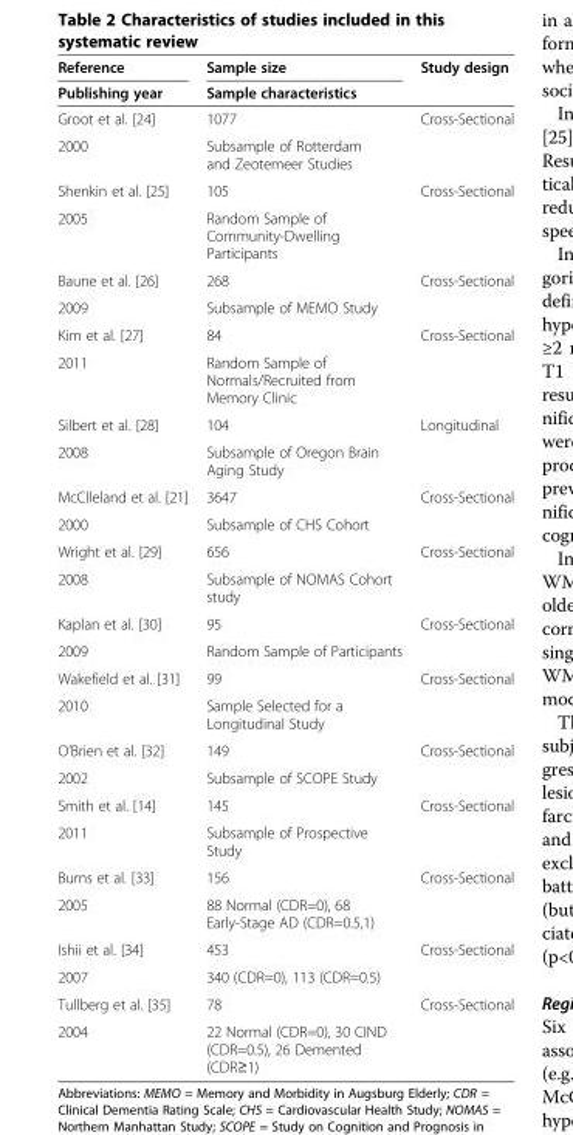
<table><thead><tr><td rowspan="2">Reference Publishing year</td><td rowspan="2">Sample size Sample characteristics</td><td rowspan="2">Study design</td></tr><tr></tr></thead><tbody><tr><td>Groot et al. [24]</td><td>1077</td><td rowspan="2">Cross-Sectional</td></tr><tr><td>2000</td><td>Subsample of Rotterdam and Zeotemeer Studies</td></tr><tr><td>Shenkin et al. [25]</td><td>105</td><td rowspan="2">Cross-Sectional</td></tr><tr><td>2005</td><td>Random Sample of Community-Dwelling Participants</td></tr><tr><td>Baune et al. [26]</td><td>268</td><td rowspan="2">Cross-Sectional</td></tr><tr><td>2009</td><td>Subsample of MEMO Study</td></tr><tr><td>Kim et al. [27]</td><td>84</td><td rowspan="2">Cross-Sectional</td></tr><tr><td>2011</td><td>Random Sample of Normals/Recruited from Memory Clinic</td></tr><tr><td>Silbert et al. [28]</td><td>104</td><td rowspan="2">Longitudinal</td></tr><tr><td>2008</td><td>Subsample of Oregon Brain Aging Study</td></tr><tr><td>McClleland et al. [21]</td><td>3647</td><td rowspan="2">Cross-Sectional</td></tr><tr><td>2000</td><td>Subsample of CHS Cohort</td></tr><tr><td>Wright et al. [29]</td><td>656</td><td rowspan="2">Cross-Sectional</td></tr><tr><td>2008</td><td>Subsample of NOMAS Cohort study</td></tr><tr><td>Kaplan et al. [30]</td><td>95</td><td rowspan="2">Cross-Sectional</td></tr><tr><td>2009</td><td>Random Sample of Participants</td></tr><tr><td>Wakefield et al. [31]</td><td>99</td><td rowspan="2">Cross-Sectional</td></tr><tr><td>2010</td><td>Sample Selected for a Longitudinal Study</td></tr><tr><td>O’Brien et al. [32]</td><td>149</td><td rowspan="2">Cross-Sectional</td></tr><tr><td>2002</td><td>Subsample of SCOPE Study</td></tr><tr><td>Smith et al. [14]</td><td>145</td><td rowspan="2">Cross-Sectional</td></tr><tr><td>2011</td><td>Subsample of Prospective Study</td></tr><tr><td>Burns et al. [33]</td><td>156</td><td rowspan="2">Cross-Sectional</td></tr><tr><td>2005</td><td>88 Normal (CDR=0), 68 Early-Stage AD (CDR=0.5,1)</td></tr><tr><td>Ishii et al. [34]</td><td>453</td><td rowspan="2">Cross-Sectional</td></tr><tr><td>2007</td><td>340 (CDR=0), 113 (CDR=0.5)</td></tr><tr><td>Tullberg et al. [35]</td><td>78</td><td>Cross-Sectional</td></tr><tr><td>2004</td><td>22 Normal (CDR=0), 30 CIND (CDR=0.5), 26 Demented (CDR≥1)</td><td></td></tr></tbody></table>